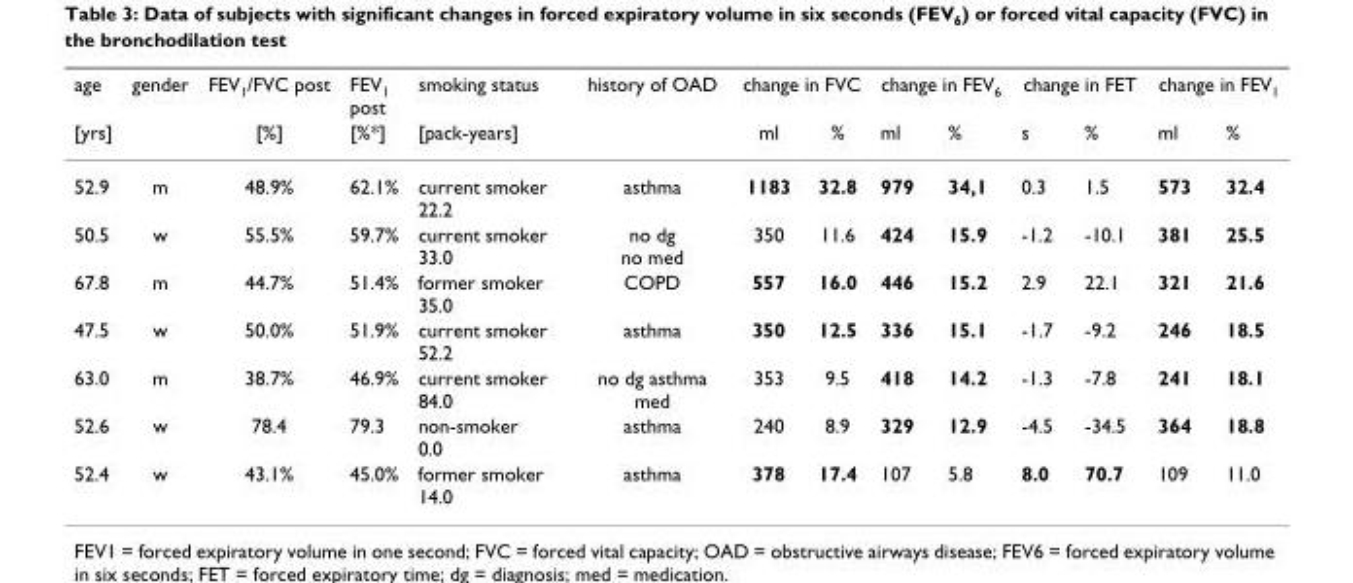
<table><thead><tr><td rowspan="2">age [yrs]</td><td rowspan="2">gender</td><td rowspan="2">FEV1/FVC post [%]</td><td rowspan="2">FEV1 post [%*]</td><td rowspan="2">smoking status [pack-years]</td><td rowspan="2">history of OAD</td><td colspan="2">change in FVC</td><td colspan="2">change in FEV<sub>6</sub></td><td colspan="2">change in FET</td><td colspan="2">change in FEV<sub>1</sub></td></tr><tr><td>ml</td><td>%</td><td>ml</td><td>%</td><td>s</td><td>%</td><td>ml</td><td>%</td></tr></thead><tbody><tr><td>52.9</td><td>m</td><td>48.9%</td><td>62.1%</td><td>current smoker 22.2</td><td>asthma</td><td>1183</td><td>32.8</td><td>979</td><td>34,1</td><td>0.3</td><td>1.5</td><td>573</td><td>32.4</td></tr><tr><td>50.5</td><td>w</td><td>55.5%</td><td>59.7%</td><td>current smoker 33.0</td><td>no dg no med</td><td>350</td><td>11.6</td><td>424</td><td>15.9</td><td>-1.2</td><td>-10.1</td><td>381</td><td>25.5</td></tr><tr><td>67.8</td><td>m</td><td>44.7%</td><td>51.4%</td><td>former smoker 35.0</td><td>COPD</td><td>557</td><td>16.0</td><td>446</td><td>15.2</td><td>2.9</td><td>22.1</td><td>321</td><td>21.6</td></tr><tr><td>47.5</td><td>w</td><td>50.0%</td><td>51.9%</td><td>current smoker 52.2</td><td>asthma</td><td>350</td><td>12.5</td><td>336</td><td>15.1</td><td>-1.7</td><td>-9.2</td><td>246</td><td>18.5</td></tr><tr><td>63.0</td><td>m</td><td>38.7%</td><td>46.9%</td><td>current smoker 84.0</td><td>no dg asthma med</td><td>353</td><td>9.5</td><td>418</td><td>14.2</td><td>-1.3</td><td>-7.8</td><td>241</td><td>18.1</td></tr><tr><td>52.6</td><td>w</td><td>78.4</td><td>79.3</td><td>non-smoker 0.0</td><td>asthma</td><td>240</td><td>8.9</td><td>329</td><td>12.9</td><td>-4.5</td><td>-34.5</td><td>364</td><td>18.8</td></tr><tr><td>52.4</td><td>w</td><td>43.1%</td><td>45.0%</td><td>former smoker 14.0</td><td>asthma</td><td>378</td><td>17.4</td><td>107</td><td>5.8</td><td>8.0</td><td>70.7</td><td>109</td><td>11.0</td></tr></tbody></table>